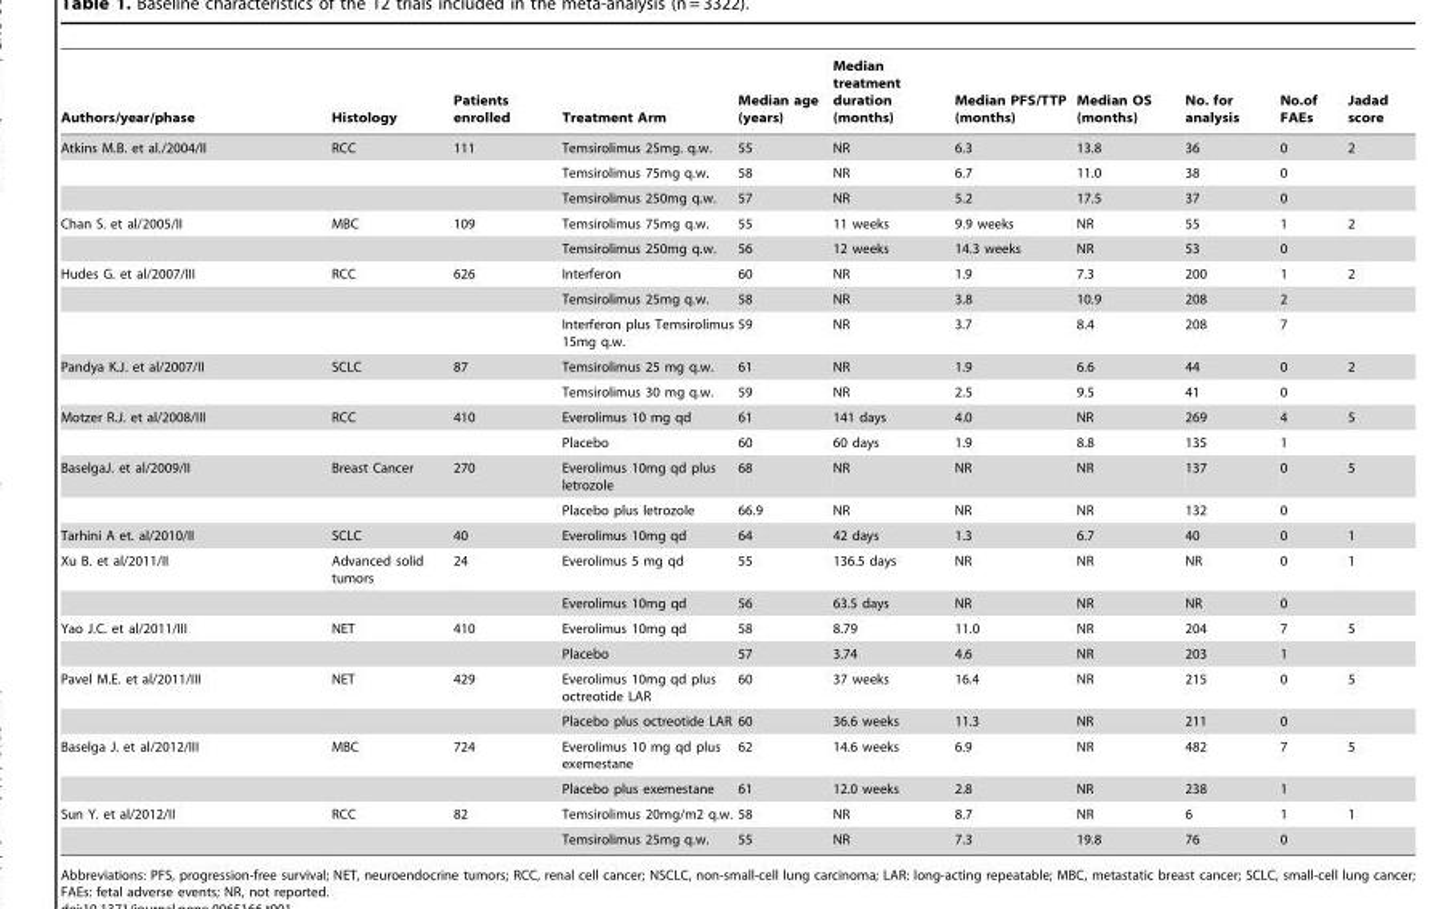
<table><thead><tr><td>Authors/year/phase</td><td>Histology</td><td>Patients enrolled</td><td>Treatment Arm</td><td>Median age (years)</td><td>Median treatment duration (months)</td><td>Median PFS/TTP (months)</td><td>Median OS (months)</td><td>No. for analysis</td><td>No.of FAEs</td><td>Jadad score</td></tr></thead><tbody><tr><td rowspan="3">Atkins M.B. et al./2004/II</td><td>RCC</td><td>111</td><td>Temsirolimus 25mg. q.w.</td><td>55</td><td>NR</td><td>6.3</td><td>13.8</td><td>36</td><td>0</td><td>2</td></tr><tr><td></td><td></td><td>Temsirolimus 75mg q.w.</td><td>58</td><td>NR</td><td>6.7</td><td>11.0</td><td>38</td><td>0</td><td></td></tr><tr><td></td><td></td><td>Temsirolimus 250mg q.w.</td><td>57</td><td>NR</td><td>5.2</td><td>17.5</td><td>37</td><td>0</td><td></td></tr><tr><td rowspan="2">Chan S. et al/2005/II</td><td>MBC</td><td>109</td><td>Temsirolimus 75mg q.w.</td><td>55</td><td>11 weeks</td><td>9.9 weeks</td><td>NR</td><td>55</td><td>1</td><td>2</td></tr><tr><td></td><td></td><td>Temsirolimus 250mg q.w.</td><td>56</td><td>12 weeks</td><td>14.3 weeks</td><td>NR</td><td>53</td><td>0</td><td></td></tr><tr><td rowspan="3">Hudes G. et al/2007/III</td><td>RCC</td><td>626</td><td>Interferon</td><td>60</td><td>NR</td><td>1.9</td><td>7.3</td><td>200</td><td>1</td><td>2</td></tr><tr><td></td><td></td><td>Temsirolimus 25mg q.w.</td><td>58</td><td>NR</td><td>3.8</td><td>10.9</td><td>208</td><td>2</td><td></td></tr><tr><td></td><td></td><td>Interferon plus Temsirolimus 15mg q.w.</td><td>59</td><td>NR</td><td>3.7</td><td>8.4</td><td>208</td><td>7</td><td></td></tr><tr><td rowspan="2">Pandya K.J. et al/2007/II</td><td>SCLC</td><td>87</td><td>Temsirolimus 25 mg q.w.</td><td>61</td><td>NR</td><td>1.9</td><td>6.6</td><td>44</td><td>0</td><td>2</td></tr><tr><td></td><td></td><td>Temsirolimus 30 mg q.w.</td><td>59</td><td>NR</td><td>2.5</td><td>9.5</td><td>41</td><td>0</td><td></td></tr><tr><td rowspan="2">Motzer R.J. et al/2008/III</td><td>RCC</td><td>410</td><td>Everolimus 10 mg qd</td><td>61</td><td>141 days</td><td>4.0</td><td>NR</td><td>269</td><td>4</td><td>5</td></tr><tr><td></td><td></td><td>Placebo</td><td>60</td><td>60 days</td><td>1.9</td><td>8.8</td><td>135</td><td>1</td><td></td></tr><tr><td rowspan="2">BaselgaJ. et al/2009/II</td><td>Breast Cancer</td><td>270</td><td>Everolimus 10mg qd plus letrozole</td><td>68</td><td>NR</td><td>NR</td><td>NR</td><td>137</td><td>0</td><td>5</td></tr><tr><td></td><td></td><td>Placebo plus letrozole</td><td>66.9</td><td>NR</td><td>NR</td><td>NR</td><td>132</td><td>0</td><td></td></tr><tr><td>Tarhini A et. al/2010/II</td><td>SCLC</td><td>40</td><td>Everolimus 10mg qd</td><td>64</td><td>42 days</td><td>1.3</td><td>6.7</td><td>40</td><td>0</td><td>1</td></tr><tr><td rowspan="2">Xu B. et al/2011/II</td><td>Advanced solid tumors</td><td>24</td><td>Everolimus 5 mg qd</td><td>55</td><td>136.5 days</td><td>NR</td><td>NR</td><td>NR</td><td>0</td><td>1</td></tr><tr><td></td><td></td><td>Everolimus 10mg qd</td><td>56</td><td>63.5 days</td><td>NR</td><td>NR</td><td>NR</td><td>0</td><td></td></tr><tr><td rowspan="2">Yao J.C. et al/2011/III</td><td>NET</td><td>410</td><td>Everolimus 10mg qd</td><td>58</td><td>8.79</td><td>11.0</td><td>NR</td><td>204</td><td>7</td><td>5</td></tr><tr><td></td><td></td><td>Placebo</td><td>57</td><td>3.74</td><td>4.6</td><td>NR</td><td>203</td><td>1</td><td></td></tr><tr><td rowspan="2">Pavel M.E. et al/2011/III</td><td>NET</td><td>429</td><td>Everolimus 10mg qd plus octreotide LAR</td><td>60</td><td>37 weeks</td><td>16.4</td><td>NR</td><td>215</td><td>0</td><td>5</td></tr><tr><td></td><td></td><td>Placebo plus octreotide LAR</td><td>60</td><td>36.6 weeks</td><td>11.3</td><td>NR</td><td>211</td><td>0</td><td></td></tr><tr><td rowspan="2">Baselga J. et al/2012/III</td><td>MBC</td><td>724</td><td>Everolimus 10 mg qd plus exemestane</td><td>62</td><td>14.6 weeks</td><td>6.9</td><td>NR</td><td>482</td><td>7</td><td>5</td></tr><tr><td></td><td></td><td>Placebo plus exemestane</td><td>61</td><td>12.0 weeks</td><td>2.8</td><td>NR</td><td>238</td><td>1</td><td></td></tr><tr><td rowspan="2">Sun Y. et al/2012/II</td><td>RCC</td><td>82</td><td>Temsirolimus 20mg/m2 q.w.</td><td>58</td><td>NR</td><td>8.7</td><td>NR</td><td>6</td><td>1</td><td>1</td></tr><tr><td></td><td></td><td>Temsirolimus 25mg q.w.</td><td>55</td><td>NR</td><td>7.3</td><td>19.8</td><td>76</td><td>0</td><td></td></tr></tbody></table>